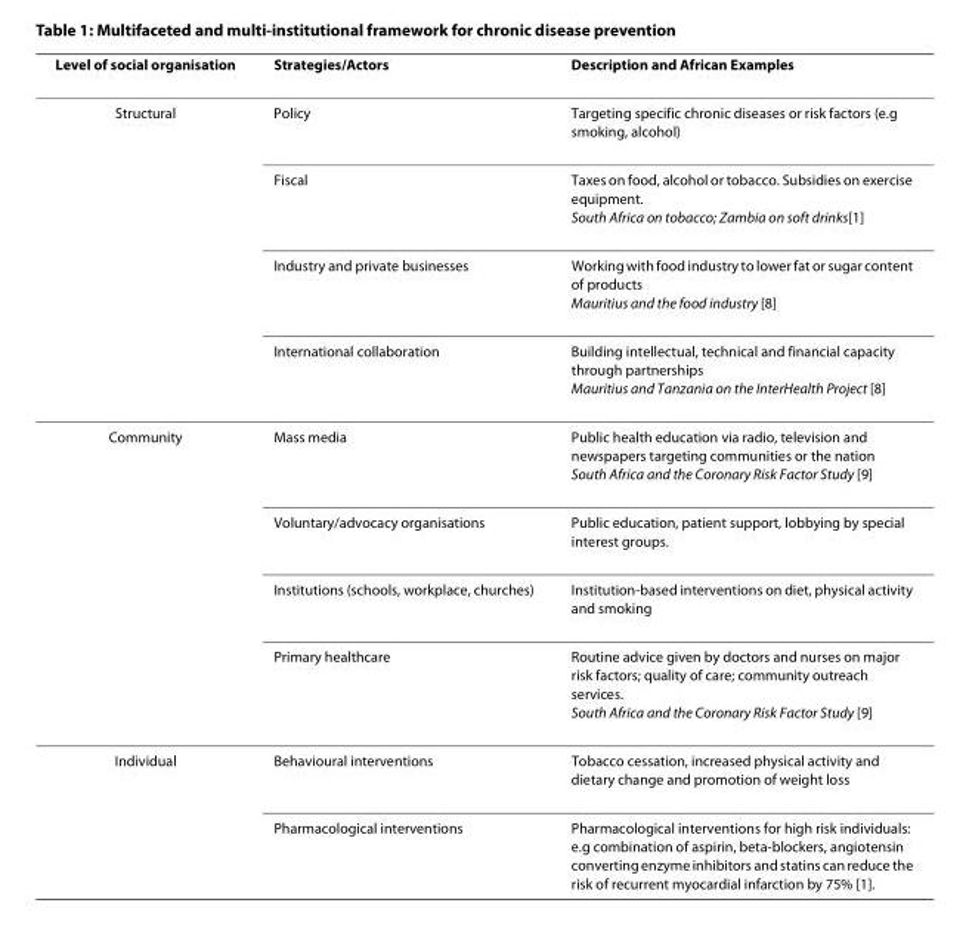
<table><thead><tr><td>Level of social organisation</td><td>Strategies/Actors</td><td>Description and African Examples</td></tr></thead><tbody><tr><td rowspan="4">Structural</td><td>Policy</td><td>Targeting specific chronic diseases or risk factors (e.g smoking, alcohol)</td></tr><tr><td>Fiscal</td><td>Taxes on food, alcohol or tobacco. Subsidies on exercise equipment. South Africa on tobacco; Zambia on soft drinks[1]</td></tr><tr><td>Industry and private businesses</td><td>Working with food industry to lower fat or sugar content of products Mauritius and the food industry [8]</td></tr><tr><td>International collaboration</td><td>Building intellectual, technical and financial capacity through partnerships Mauritius and Tanzania on the InterHealth Project [8]</td></tr><tr><td rowspan="4">Community</td><td>Mass media</td><td>Public health education via radio, television and newspapers targeting communities or the nation South Africa and the Coronary Risk Factor Study [9]</td></tr><tr><td>Voluntary/advocacy organisations</td><td>Public education, patient support, lobbying by special interest groups.</td></tr><tr><td>Institutions (schools, workplace, churches)</td><td>Institution-based interventions on diet, physical activity and smoking</td></tr><tr><td>Primary healthcare</td><td>Routine advice given by doctors and nurses on major risk factors; quality of care; community outreach services. South Africa and the Coronary Risk Factor Study [9]</td></tr><tr><td rowspan="2">Individual</td><td>Behavioural interventions</td><td>Tobacco cessation, increased physical activity and dietary change and promotion of weight loss</td></tr><tr><td>Pharmacological interventions</td><td>Pharmacological interventions for high risk individuals: e.g combination of aspirin, beta-blockers, angiotensin converting enzyme inhibitors and statins can reduce the risk of recurrent myocardial infarction by 75% [1].</td></tr></tbody></table>